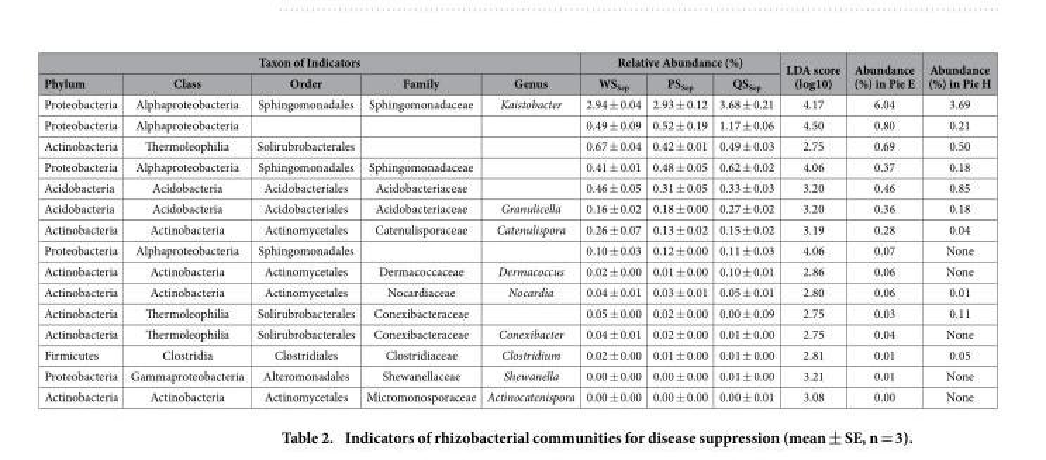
<table><thead><tr><td colspan="5">Taxon of Indicators</td><td colspan="3">Relative Abundance (%)</td><td rowspan="2">LDA score (log10)</td><td rowspan="2">Abundance (%) in Pie E</td><td rowspan="2">Abundance (%) in Pie H</td></tr><tr><td>Phylum</td><td>Class</td><td>Order</td><td>Family</td><td>Genus</td><td>WS<sub>Sep</sub></td><td>PS<sub>Sep</sub></td><td>QS<sub>Sep</sub></td></tr></thead><tbody><tr><td>Proteobacteria</td><td>Alphaproteobacteria</td><td>Sphingomonadales</td><td>Sphingomonadaceae</td><td>Kaistobacter</td><td>2.94 ± 0.04</td><td>2.93 ± 0.12</td><td>3.68 ± 0.21</td><td>4.17</td><td>6.04</td><td>3.69</td></tr><tr><td>Proteobacteria</td><td>Alphaproteobacteria</td><td></td><td></td><td></td><td>0.49 ± 0.09</td><td>0.52 ± 0.19</td><td>1.17 ± 0.06</td><td>4.50</td><td>0.80</td><td>0.21</td></tr><tr><td>Actinobacteria</td><td>Thermoleophilia</td><td>Solirubrobacterales</td><td></td><td></td><td>0.67 ± 0.04</td><td>0.42 ± 0.01</td><td>0.49 ± 0.03</td><td>2.75</td><td>0.69</td><td>0.50</td></tr><tr><td>Proteobacteria</td><td>Alphaproteobacteria</td><td>Sphingomonadales</td><td>Sphingomonadaceae</td><td></td><td>0.41 ± 0.01</td><td>0.48 ± 0.05</td><td>0.62 ± 0.02</td><td>4.06</td><td>0.37</td><td>0.18</td></tr><tr><td>Acidobacteria</td><td>Acidobacteria</td><td>Acidobacteriales</td><td>Acidobacteriaceae</td><td></td><td>0.46 ± 0.05</td><td>0.31 ± 0.05</td><td>0.33 ± 0.03</td><td>3.20</td><td>0.46</td><td>0.85</td></tr><tr><td>Acidobacteria</td><td>Acidobacteria</td><td>Acidobacteriales</td><td>Acidobacteriaceae</td><td>Granulicella</td><td>0.16 ± 0.02</td><td>0.18 ± 0.00</td><td>0.27 ± 0.02</td><td>3.20</td><td>0.36</td><td>0.18</td></tr><tr><td>Actinobacteria</td><td>Actinobacteria</td><td>Actinomycetales</td><td>Catenulisporaceae</td><td>Catenulispora</td><td>0.26 ± 0.07</td><td>0.13 ± 0.02</td><td>0.15 ± 0.02</td><td>3.19</td><td>0.28</td><td>0.04</td></tr><tr><td>Proteobacteria</td><td>Alphaproteobacteria</td><td>Sphingomonadales</td><td></td><td></td><td>0.10 ± 0.03</td><td>0.12 ± 0.00</td><td>0.11 ± 0.03</td><td>4.06</td><td>0.07</td><td>None</td></tr><tr><td>Actinobacteria</td><td>Actinobacteria</td><td>Actinomycetales</td><td>Dermacoccaceae</td><td>Dermacoccus</td><td>0.02 ± 0.00</td><td>0.01 ± 0.00</td><td>0.10 ± 0.01</td><td>2.86</td><td>0.06</td><td>None</td></tr><tr><td>Actinobacteria</td><td>Actinobacteria</td><td>Actinomycetales</td><td>Nocardiaceae</td><td>Nocardia</td><td>0.04 ± 0.01</td><td>0.03 ± 0.01</td><td>0.05 ± 0.01</td><td>2.80</td><td>0.06</td><td>0.01</td></tr><tr><td>Actinobacteria</td><td>Thermoleophilia</td><td>Solirubrobacterales</td><td>Conexibacteraceae</td><td></td><td>0.05 ± 0.00</td><td>0.02 ± 0.00</td><td>0.00 ± 0.09</td><td>2.75</td><td>0.03</td><td>0.11</td></tr><tr><td>Actinobacteria</td><td>Thermoleophilia</td><td>Solirubrobacterales</td><td>Conexibacteraceae</td><td>Conexibacter</td><td>0.04 ± 0.01</td><td>0.02 ± 0.00</td><td>0.01 ± 0.00</td><td>2.75</td><td>0.04</td><td>None</td></tr><tr><td>Firmicutes</td><td>Clostridia</td><td>Clostridiales</td><td>Clostridiaceae</td><td>Clostridium</td><td>0.02 ± 0.00</td><td>0.01 ± 0.00</td><td>0.01 ± 0.00</td><td>2.81</td><td>0.01</td><td>0.05</td></tr><tr><td>Proteobacteria</td><td>Gammaproteobacteria</td><td>Alteromonadales</td><td>Shewanellaceae</td><td>Shewanella</td><td>0.00 ± 0.00</td><td>0.00 ± 0.00</td><td>0.01 ± 0.00</td><td>3.21</td><td>0.01</td><td>None</td></tr><tr><td>Actinobacteria</td><td>Actinobacteria</td><td>Actinomycetales</td><td>Micromonosporaceae</td><td>Actinocatenispora</td><td>0.00 ± 0.00</td><td>0.00 ± 0.00</td><td>0.00 ± 0.01</td><td>3.08</td><td>0.00</td><td>None</td></tr></tbody></table>